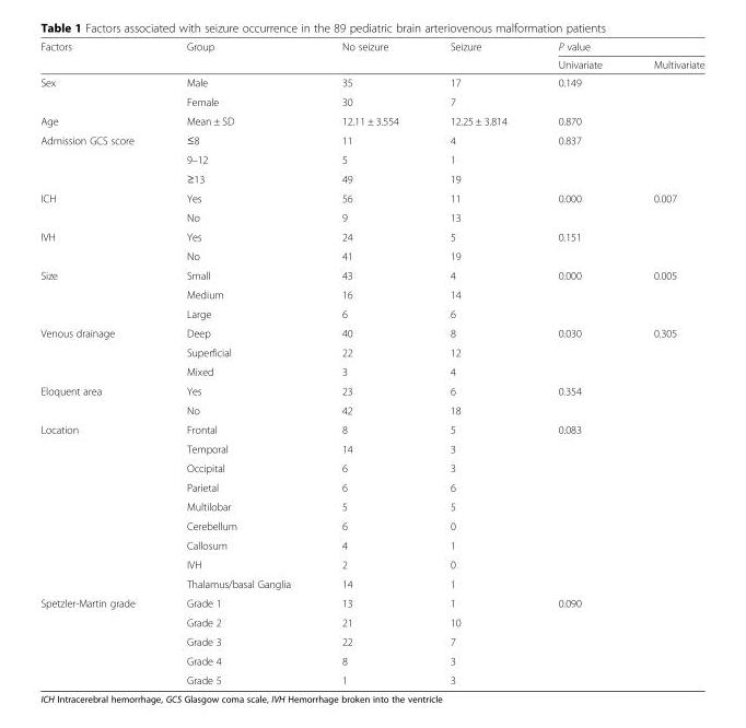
<table><thead><tr><td rowspan="2">Factors</td><td rowspan="2">Group</td><td rowspan="2">No seizure</td><td rowspan="2">Seizure</td><td colspan="2">P value</td></tr><tr><td>Univariate</td><td>Multivariate</td></tr></thead><tbody><tr><td rowspan="2">Sex</td><td>Male</td><td>35</td><td>17</td><td rowspan="2">0.149</td><td rowspan="2"></td></tr><tr><td>Female</td><td>30</td><td>7</td></tr><tr><td>Age</td><td>Mean ± SD</td><td>12.11 ± 3.554</td><td>12.25 ± 3.814</td><td>0.870</td><td></td></tr><tr><td rowspan="3">Admission GCS score</td><td>≤8</td><td>11</td><td>4</td><td rowspan="3">0.837</td><td rowspan="3"></td></tr><tr><td>9–12</td><td>5</td><td>1</td></tr><tr><td>≥13</td><td>49</td><td>19</td></tr><tr><td rowspan="2">ICH</td><td>Yes</td><td>56</td><td>11</td><td rowspan="2">0.000</td><td rowspan="2">0.007</td></tr><tr><td>No</td><td>9</td><td>13</td></tr><tr><td rowspan="2">IVH</td><td>Yes</td><td>24</td><td>5</td><td rowspan="2">0.151</td><td rowspan="2"></td></tr><tr><td>No</td><td>41</td><td>19</td></tr><tr><td rowspan="3">Size</td><td>Small</td><td>43</td><td>4</td><td rowspan="3">0.000</td><td rowspan="3">0.005</td></tr><tr><td>Medium</td><td>16</td><td>14</td></tr><tr><td>Large</td><td>6</td><td>6</td></tr><tr><td rowspan="3">Venous drainage</td><td>Deep</td><td>40</td><td>8</td><td rowspan="3">0.030</td><td rowspan="3">0.305</td></tr><tr><td>Superficial</td><td>22</td><td>12</td></tr><tr><td>Mixed</td><td>3</td><td>4</td></tr><tr><td rowspan="2">Eloquent area</td><td>Yes</td><td>23</td><td>6</td><td rowspan="2">0.354</td><td rowspan="2"></td></tr><tr><td>No</td><td>42</td><td>18</td></tr><tr><td rowspan="9">Location</td><td>Frontal</td><td>8</td><td>5</td><td rowspan="9">0.083</td><td rowspan="9"></td></tr><tr><td>Temporal</td><td>14</td><td>3</td></tr><tr><td>Occipital</td><td>6</td><td>3</td></tr><tr><td>Parietal</td><td>6</td><td>6</td></tr><tr><td>Multilobar</td><td>5</td><td>5</td></tr><tr><td>Cerebellum</td><td>6</td><td>0</td></tr><tr><td>Callosum</td><td>4</td><td>1</td></tr><tr><td>IVH</td><td>2</td><td>0</td></tr><tr><td>Thalamus/basal Ganglia</td><td>14</td><td>1</td></tr><tr><td rowspan="5">Spetzler-Martin grade</td><td>Grade 1</td><td>13</td><td>1</td><td rowspan="5">0.090</td><td rowspan="5"></td></tr><tr><td>Grade 2</td><td>21</td><td>10</td></tr><tr><td>Grade 3</td><td>22</td><td>7</td></tr><tr><td>Grade 4</td><td>8</td><td>3</td></tr><tr><td>Grade 5</td><td>1</td><td>3</td></tr></tbody></table>